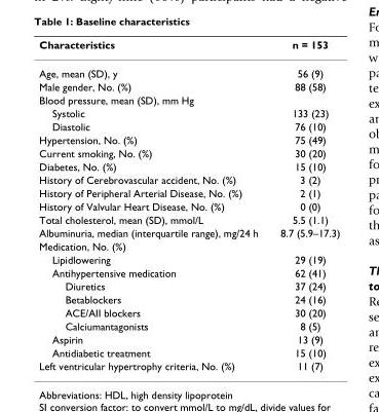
<table><thead><tr><td>Characteristics</td><td>n = 153</td></tr></thead><tbody><tr><td>Age, mean (SD), y</td><td>56 (9)</td></tr><tr><td>Male gender, No. (%)</td><td>88 (58)</td></tr><tr><td colspan="2">Blood pressure, mean (SD), mm Hg</td></tr><tr><td>Systolic</td><td>133 (23)</td></tr><tr><td>Diastolic</td><td>76 (10)</td></tr><tr><td>Hypertension, No. (%)</td><td>75 (49)</td></tr><tr><td>Current smoking, No. (%)</td><td>30 (20)</td></tr><tr><td>Diabetes, No. (%)</td><td>15 (10)</td></tr><tr><td>History of Cerebrovascular accident, No. (%)</td><td>3 (2)</td></tr><tr><td>History of Peripheral Arterial Disease, No. (%)</td><td>2 (1)</td></tr><tr><td>History of Valvular Heart Disease, No. (%)</td><td>0 (0)</td></tr><tr><td>Total cholesterol, mean (SD), mmol/L</td><td>5.5 (1.1)</td></tr><tr><td>Albuminuria, median (interquartile range), mg/24 h</td><td>8.7 (5.9–17.3)</td></tr><tr><td colspan="2">Medication, No. (%)</td></tr><tr><td>Lipidlowering</td><td>29 (19)</td></tr><tr><td>Antihypertensive medication</td><td>62 (41)</td></tr><tr><td>Diuretics</td><td>37 (24)</td></tr><tr><td>Betablockers</td><td>24 (16)</td></tr><tr><td>ACE/AII blockers</td><td>30 (20)</td></tr><tr><td>Calciumantagonists</td><td>8 (5)</td></tr><tr><td>Aspirin</td><td>13 (9)</td></tr><tr><td>Antidiabetic treatment</td><td>15 (10)</td></tr><tr><td>Left ventricular hypertrophy criteria, No. (%)</td><td>11 (7)</td></tr></tbody></table>